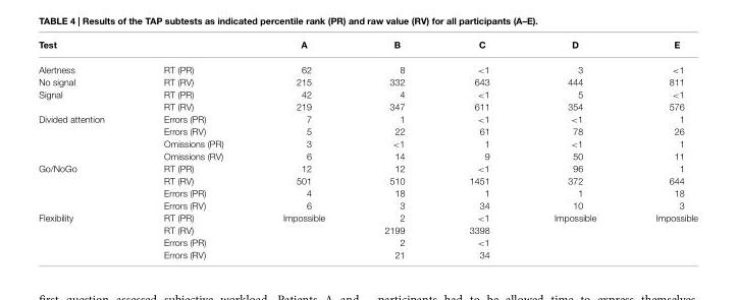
<table><thead><tr><td>Test</td><td></td><td>A</td><td>B</td><td>C</td><td>D</td><td>E</td></tr></thead><tbody><tr><td>Alertness</td><td>RT (PR)</td><td>62</td><td>8</td><td>&lt;1</td><td>3</td><td>&lt;1</td></tr><tr><td>No signal</td><td>RT (RV)</td><td>215</td><td>332</td><td>643</td><td>444</td><td>811</td></tr><tr><td rowspan="2">Signal</td><td>RT (PR)</td><td>42</td><td>4</td><td>&lt;1</td><td>5</td><td>&lt;1</td></tr><tr><td>RT (RV)</td><td>219</td><td>347</td><td>611</td><td>354</td><td>576</td></tr><tr><td rowspan="4">Divided attention</td><td>Errors (PR)</td><td>7</td><td>1</td><td>&lt;1</td><td>&lt;1</td><td>1</td></tr><tr><td>Errors (RV)</td><td>5</td><td>22</td><td>61</td><td>78</td><td>26</td></tr><tr><td>Omissions (PR)</td><td>3</td><td>&lt;1</td><td>1</td><td>&lt;1</td><td>1</td></tr><tr><td>Omissions (RV)</td><td>6</td><td>14</td><td>9</td><td>50</td><td>11</td></tr><tr><td rowspan="4">Go/NoGo</td><td>RT (PR)</td><td>12</td><td>12</td><td>&lt;1</td><td>96</td><td>1</td></tr><tr><td>RT (RV)</td><td>501</td><td>510</td><td>1451</td><td>372</td><td>644</td></tr><tr><td>Errors (PR)</td><td>4</td><td>18</td><td>1</td><td>1</td><td>18</td></tr><tr><td>Errors (RV)</td><td>6</td><td>3</td><td>34</td><td>10</td><td>3</td></tr><tr><td rowspan="4">Flexibility</td><td>RT (PR)</td><td>Impossible</td><td>2</td><td>&lt;1</td><td>Impossible</td><td>Impossible</td></tr><tr><td>RT (RV)</td><td></td><td>2199</td><td>3398</td><td></td><td></td></tr><tr><td>Errors (PR)</td><td></td><td>2</td><td>&lt;1</td><td></td><td></td></tr><tr><td>Errors (RV)</td><td></td><td>21</td><td>34</td><td></td><td></td></tr></tbody></table>